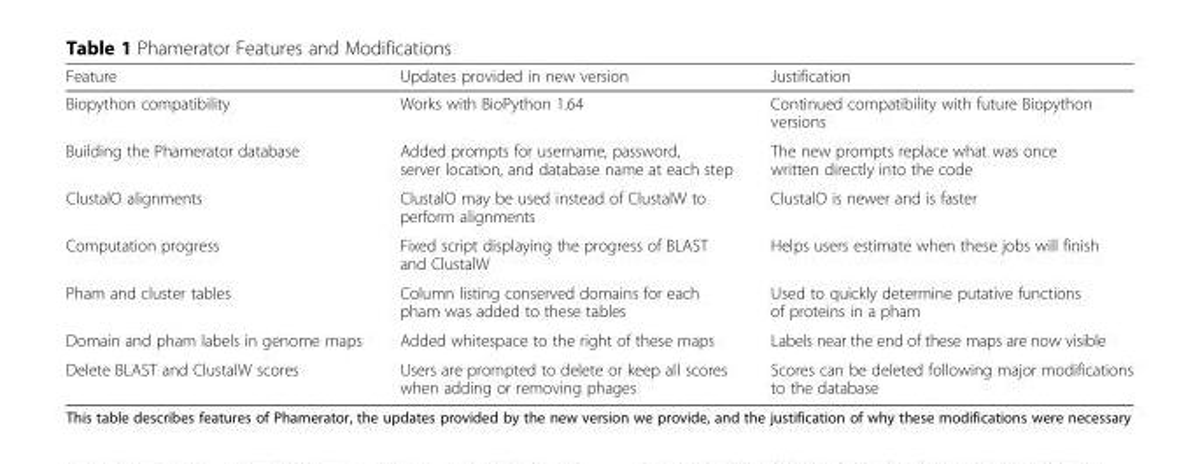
<table><thead><tr><td>Feature</td><td>Updates provided in new version</td><td>Justification</td></tr></thead><tbody><tr><td>Biopython compatibility</td><td>Works with BioPython 1.64</td><td>Continued compatibility with future Biopython versions</td></tr><tr><td>Building the Phamerator database</td><td>Added prompts for username, password, server location, and database name at each step</td><td>The new prompts replace what was once written directly into the code</td></tr><tr><td>ClustalO alignments</td><td>ClustalO may be used instead of ClustalW to perform alignments</td><td>ClustalO is newer and is faster</td></tr><tr><td>Computation progress</td><td>Fixed script displaying the progress of BLAST and ClustalW</td><td>Helps users estimate when these jobs will finish</td></tr><tr><td>Pham and cluster tables</td><td>Column listing conserved domains for each pham was added to these tables</td><td>Used to quickly determine putative functions of proteins in a pham</td></tr><tr><td>Domain and pham labels in genome maps</td><td>Added whitespace to the right of these maps</td><td>Labels near the end of these maps are now visible</td></tr><tr><td>Delete BLAST and ClustalW scores</td><td>Users are prompted to delete or keep all scores when adding or removing phages</td><td>Scores can be deleted following major modifications to the database</td></tr></tbody></table>